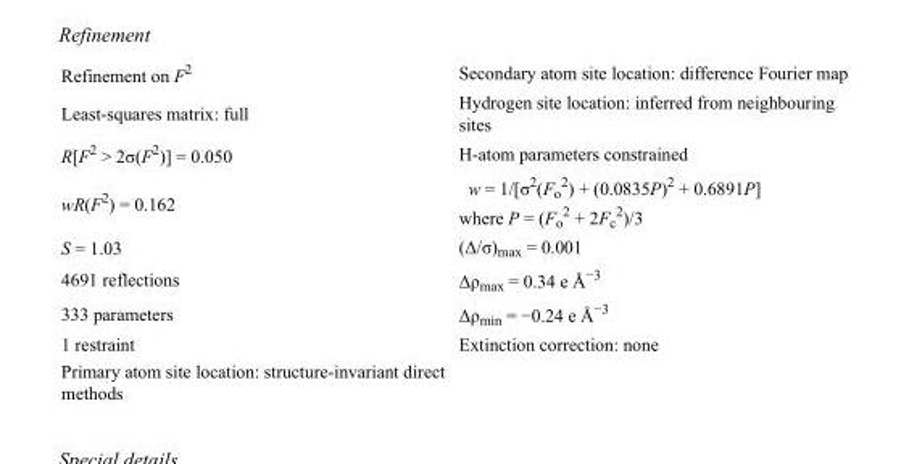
<table><tbody><tr><td>Refinement on F<sup>2</sup></td><td>Secondary atom site location: difference Fourier map</td></tr><tr><td>Least-squares matrix: full</td><td>Hydrogen site location: inferred from neighbouring sites</td></tr><tr><td>R[F<sup>2</sup> &gt; 2σ(F<sup>2</sup>)] = 0.050</td><td>H-atom parameters constrained</td></tr><tr><td>wR(F<sup>2</sup>) = 0.162</td><td>w = 1/[σ<sup>2</sup>(F<sub>o</sub> <sup>2</sup>) + (0.0835P)<sup>2</sup> + 0.6891P] where P = (F<sub>o</sub> <sup>2</sup> + 2F<sub>c</sub> <sup>2</sup>)/3</td></tr><tr><td>S = 1.03</td><td>(Δ/σ)<sub>max</sub> = 0.001</td></tr><tr><td>4691 reflections</td><td>Δρ<sub>max</sub> = 0.34 e Å<sup>−3</sup></td></tr><tr><td>333 parameters</td><td>Δρ<sub>min</sub> = −0.24 e Å<sup>−3</sup></td></tr><tr><td>1 restraint</td><td>Extinction correction: none</td></tr><tr><td>Primary atom site location: structure-invariant direct methods</td><td></td></tr></tbody></table>